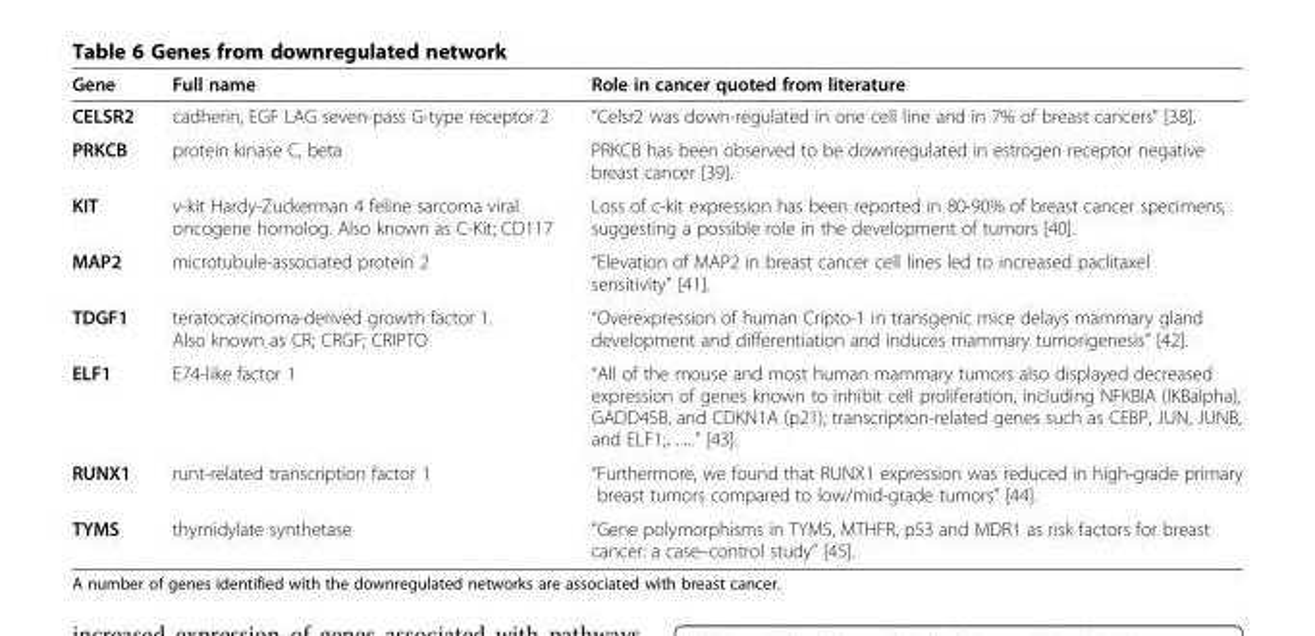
<table><thead><tr><td>Gene</td><td>Full name</td><td>Role in cancer quoted from literature</td></tr></thead><tbody><tr><td>CELSR2</td><td>cadherin, EGF LAG seven-pass G-type receptor 2</td><td>“Celsr2 was down-regulated in one cell line and in 7% of breast cancers” [38].</td></tr><tr><td>PRKCB</td><td>protein kinase C, beta</td><td>PRKCB has been observed to be downregulated in estrogen receptor negative breast cancer [39].</td></tr><tr><td>KIT</td><td>v-kit Hardy-Zuckerman 4 feline sarcoma viral oncogene homolog. Also known as C-Kit; CD117</td><td>Loss of c-kit expression has been reported in 80-90% of breast cancer specimens, suggesting a possible role in the development of tumors [40].</td></tr><tr><td>MAP2</td><td>microtubule-associated protein 2</td><td>“Elevation of MAP2 in breast cancer cell lines led to increased paclitaxel sensitivity” [41].</td></tr><tr><td>TDGF1</td><td>teratocarcinoma-derived growth factor 1. Also known as CR; CRGF; CRIPTO</td><td>“Overexpression of human Cripto-1 in transgenic mice delays mammary gland development and differentiation and induces mammary tumorigenesis” [42].</td></tr><tr><td>ELF1</td><td>E74-like factor 1</td><td>“All of the mouse and most human mammary tumors also displayed decreased expression of genes known to inhibit cell proliferation, including NFKBIA (IKBalpha), GADD45B, and CDKN1A (p21); transcription-related genes such as CEBP, JUN, JUNB, and ELF1;. . ...” [43].</td></tr><tr><td>RUNX1</td><td>runt-related transcription factor 1</td><td>“Furthermore, we found that RUNX1 expression was reduced in high-grade primary breast tumors compared to low/mid-grade tumors” [44].</td></tr><tr><td>TYMS</td><td>thymidylate synthetase</td><td>“Gene polymorphisms in TYMS, MTHFR, p53 and MDR1 as risk factors for breast cancer: a case–control study” [45].</td></tr></tbody></table>